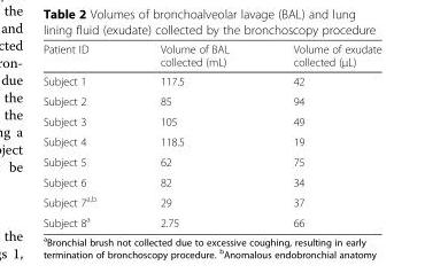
<table><thead><tr><td>Patient ID</td><td>Volume of BAL collected (mL)</td><td>Volume of exudate collected (μL)</td></tr></thead><tbody><tr><td>Subject 1</td><td>117.5</td><td>42</td></tr><tr><td>Subject 2</td><td>85</td><td>94</td></tr><tr><td>Subject 3</td><td>105</td><td>49</td></tr><tr><td>Subject 4</td><td>118.5</td><td>19</td></tr><tr><td>Subject 5</td><td>62</td><td>75</td></tr><tr><td>Subject 6</td><td>82</td><td>34</td></tr><tr><td>Subject 7<sup>a,b</sup></td><td>29</td><td>37</td></tr><tr><td>Subject 8<sup>a</sup></td><td>2.75</td><td>66</td></tr></tbody></table>